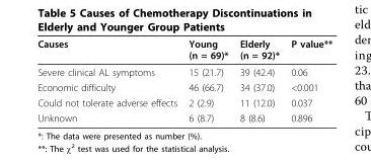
<table><thead><tr><td>Causes</td><td>Young (n = 69)*</td><td>Elderly (n = 92)*</td><td>P value**</td></tr></thead><tbody><tr><td>Severe clinical AL symptoms</td><td>15 (21.7)</td><td>39 (42.4)</td><td>0.06</td></tr><tr><td>Economic difficulty</td><td>46 (66.7)</td><td>34 (37.0)</td><td>&lt;0.001</td></tr><tr><td>Could not tolerate adverse effects</td><td>2 (2.9)</td><td>11 (12.0)</td><td>0.037</td></tr><tr><td>Unknown</td><td>6 (8.7)</td><td>8 (8.6)</td><td>0.896</td></tr></tbody></table>